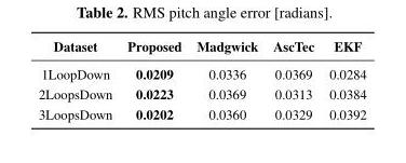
<table><thead><tr><td>Dataset</td><td>Proposed</td><td>Madgwick</td><td>AscTec</td><td>EKF</td></tr></thead><tbody><tr><td>1LoopDown</td><td>0.0209</td><td>0.0336</td><td>0.0369</td><td>0.0284</td></tr><tr><td>2LoopsDown</td><td>0.0223</td><td>0.0369</td><td>0.0313</td><td>0.0384</td></tr><tr><td>3LoopsDown</td><td>0.0202</td><td>0.0360</td><td>0.0329</td><td>0.0392</td></tr></tbody></table>